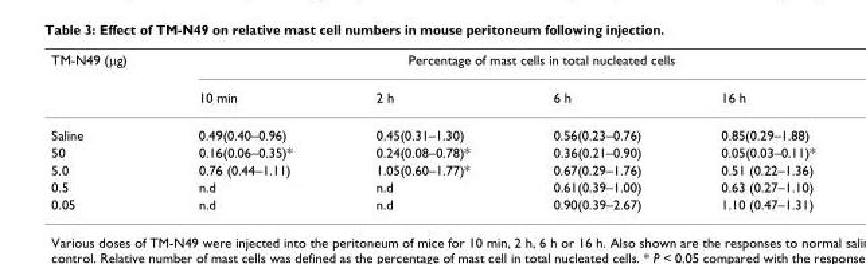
<table><thead><tr><td rowspan="2">TM-N49 (μg)</td><td colspan="4">Percentage of mast cells in total nucleated cells</td></tr><tr><td>10 min</td><td>2 h</td><td>6 h</td><td>16 h</td></tr></thead><tbody><tr><td>Saline</td><td>0.49(0.40–0.96)</td><td>0.45(0.31–1.30)</td><td>0.56(0.23–0.76)</td><td>0.85(0.29–1.88)</td></tr><tr><td>50</td><td>0.16(0.06–0.35)*</td><td>0.24(0.08–0.78)*</td><td>0.36(0.21–0.90)</td><td>0.05(0.03–0.11)*</td></tr><tr><td>5.0</td><td>0.76 (0.44–1.11)</td><td>1.05(0.60–1.77)*</td><td>0.67(0.29–1.76)</td><td>0.51 (0.22–1.36)</td></tr><tr><td>0.5</td><td>n.d</td><td>n.d</td><td>0.61(0.39–1.00)</td><td>0.63 (0.27–1.10)</td></tr><tr><td>0.05</td><td>n.d</td><td>n.d</td><td>0.90(0.39–2.67)</td><td>1.10 (0.47–1.31)</td></tr></tbody></table>